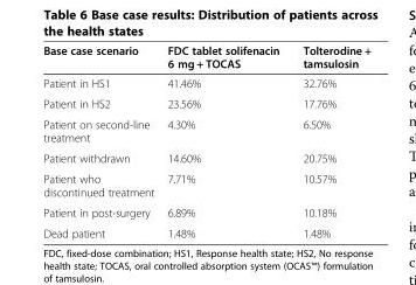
<table><thead><tr><td>Base case scenario</td><td>FDC tablet solifenacin 6 mg + TOCAS</td><td>Tolterodine + tamsulosin</td></tr></thead><tbody><tr><td>Patient in HS1</td><td>41.46%</td><td>32.76%</td></tr><tr><td>Patient in HS2</td><td>23.56%</td><td>17.76%</td></tr><tr><td>Patient on second-line treatment</td><td>4.30%</td><td>6.50%</td></tr><tr><td>Patient withdrawn</td><td>14.60%</td><td>20.75%</td></tr><tr><td>Patient who discontinued treatment</td><td>7.71%</td><td>10.57%</td></tr><tr><td>Patient in post-surgery</td><td>6.89%</td><td>10.18%</td></tr><tr><td>Dead patient</td><td>1.48%</td><td>1.48%</td></tr></tbody></table>